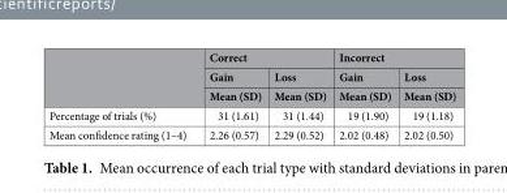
<table><thead><tr><td rowspan="3"></td><td colspan="2">Correct</td><td colspan="2">Incorrect</td></tr><tr><td rowspan="2">Gain Mean (SD)</td><td rowspan="2">Loss Mean (SD)</td><td rowspan="2">Gain Mean (SD)</td><td rowspan="2">Loss Mean (SD)</td></tr><tr></tr></thead><tbody><tr><td>Percentage of trials (%)</td><td>31 (1.61)</td><td>31 (1.44)</td><td>19 (1.90)</td><td>19 (1.18)</td></tr><tr><td>Mean confidence rating (1–4)</td><td>2.26 (0.57)</td><td>2.29 (0.52)</td><td>2.02 (0.48)</td><td>2.02 (0.50)</td></tr></tbody></table>